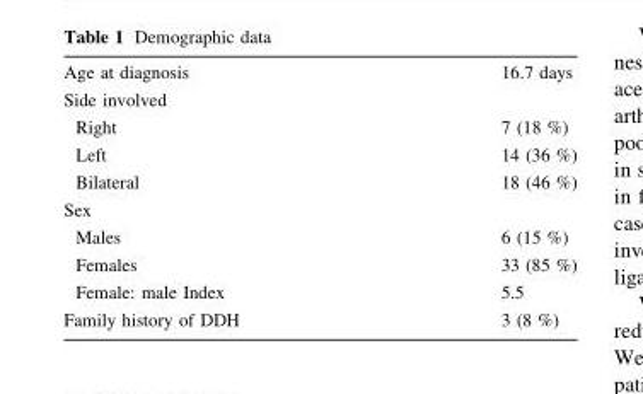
<table><tbody><tr><td>Age at diagnosis</td><td>16.7 days</td></tr><tr><td colspan="2">Side involved</td></tr><tr><td>Right</td><td>7 (18 %)</td></tr><tr><td>Left</td><td>14 (36 %)</td></tr><tr><td>Bilateral</td><td>18 (46 %)</td></tr><tr><td colspan="2">Sex</td></tr><tr><td>Males</td><td>6 (15 %)</td></tr><tr><td>Females</td><td>33 (85 %)</td></tr><tr><td>Female: male Index</td><td>5.5</td></tr><tr><td>Family history of DDH</td><td>3 (8 %)</td></tr></tbody></table>